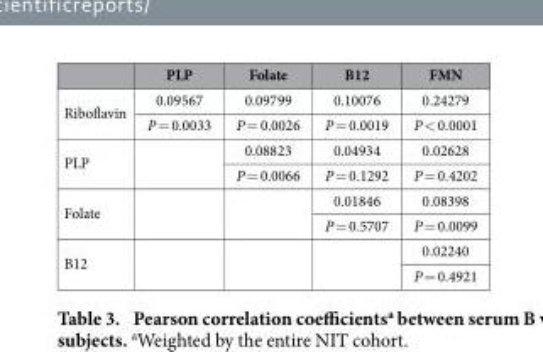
<table><thead><tr><td></td><td>PLP</td><td>Folate</td><td>B12</td><td>FMN</td></tr></thead><tbody><tr><td rowspan="2">Riboflavin</td><td>0.09567</td><td>0.09799</td><td>0.10076</td><td>0.24279</td></tr><tr><td>P = 0.0033</td><td>P = 0.0026</td><td>P = 0.0019</td><td>P &lt; 0.0001</td></tr><tr><td rowspan="2">PLP</td><td rowspan="2"></td><td>0.08823</td><td>0.04934</td><td>0.02628</td></tr><tr><td>P = 0.0066</td><td>P = 0.1292</td><td>P = 0.4202</td></tr><tr><td rowspan="2">Folate</td><td rowspan="2"></td><td rowspan="2"></td><td>0.01846</td><td>0.08398</td></tr><tr><td>P = 0.5707</td><td>P = 0.0099</td></tr><tr><td rowspan="2">B12</td><td rowspan="2"></td><td rowspan="2"></td><td rowspan="2"></td><td>0.02240</td></tr><tr><td>P = 0.4921</td></tr></tbody></table>